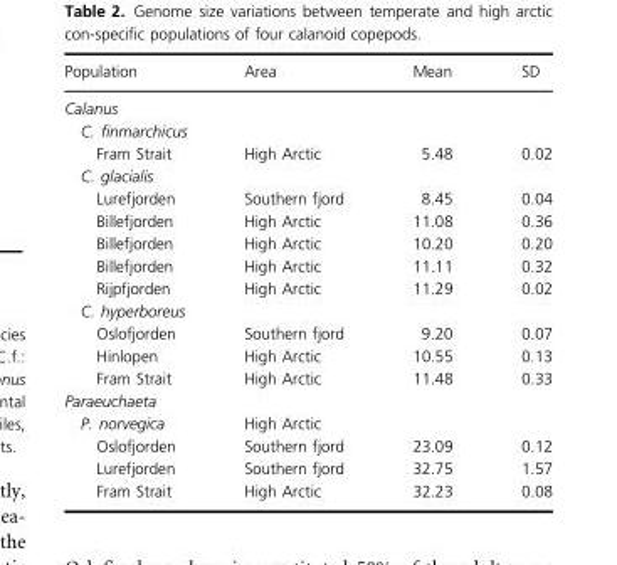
<table><thead><tr><td>Population</td><td>Area</td><td>Mean</td><td>SD</td></tr></thead><tbody><tr><td colspan="4">Calanus</td></tr><tr><td colspan="4">C. finmarchicus</td></tr><tr><td>Fram Strait</td><td>High Arctic</td><td>5.48</td><td>0.02</td></tr><tr><td colspan="4">C. glacialis</td></tr><tr><td>Lurefjorden</td><td>Southern fjord</td><td>8.45</td><td>0.04</td></tr><tr><td>Billefjorden</td><td>High Arctic</td><td>11.08</td><td>0.36</td></tr><tr><td>Billefjorden</td><td>High Arctic</td><td>10.20</td><td>0.20</td></tr><tr><td>Billefjorden</td><td>High Arctic</td><td>11.11</td><td>0.32</td></tr><tr><td>Rijpfjorden</td><td>High Arctic</td><td>11.29</td><td>0.02</td></tr><tr><td colspan="4">C. hyperboreus</td></tr><tr><td>Oslofjorden</td><td>Southern fjord</td><td>9.20</td><td>0.07</td></tr><tr><td>Hinlopen</td><td>High Arctic</td><td>10.55</td><td>0.13</td></tr><tr><td>Fram Strait</td><td>High Arctic</td><td>11.48</td><td>0.33</td></tr><tr><td colspan="4">Paraeuchaeta</td></tr><tr><td>P. norvegica</td><td>High Arctic</td><td></td><td></td></tr><tr><td>Oslofjorden</td><td>Southern fjord</td><td>23.09</td><td>0.12</td></tr><tr><td>Lurefjorden</td><td>Southern fjord</td><td>32.75</td><td>1.57</td></tr><tr><td>Fram Strait</td><td>High Arctic</td><td>32.23</td><td>0.08</td></tr></tbody></table>